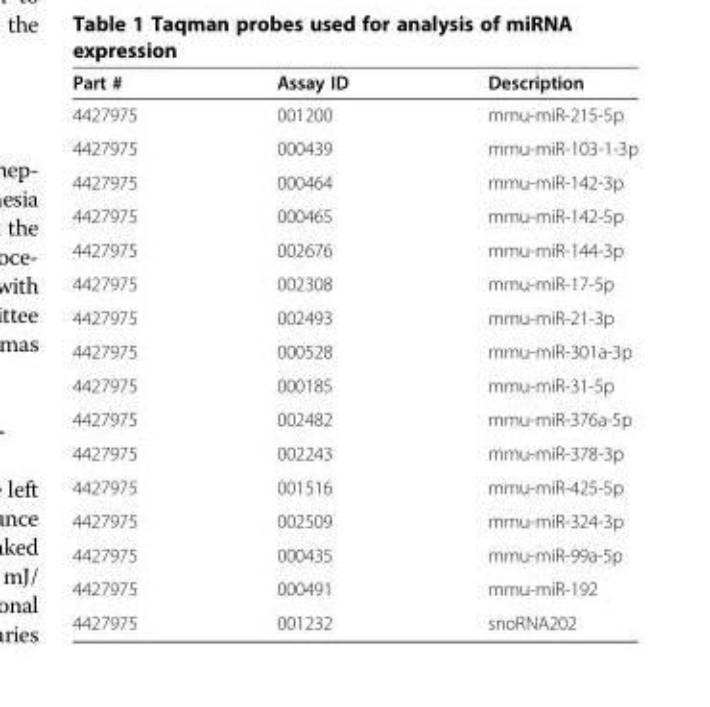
<table><thead><tr><td>Part #</td><td>Assay ID</td><td>Description</td></tr></thead><tbody><tr><td>4427975</td><td>001200</td><td>mmu-miR-215-5p</td></tr><tr><td>4427975</td><td>000439</td><td>mmu-miR-103-1-3p</td></tr><tr><td>4427975</td><td>000464</td><td>mmu-miR-142-3p</td></tr><tr><td>4427975</td><td>000465</td><td>mmu-miR-142-5p</td></tr><tr><td>4427975</td><td>002676</td><td>mmu-miR-144-3p</td></tr><tr><td>4427975</td><td>002308</td><td>mmu-miR-17-5p</td></tr><tr><td>4427975</td><td>002493</td><td>mmu-miR-21-3p</td></tr><tr><td>4427975</td><td>000528</td><td>mmu-miR-301a-3p</td></tr><tr><td>4427975</td><td>000185</td><td>mmu-miR-31-5p</td></tr><tr><td>4427975</td><td>002482</td><td>mmu-miR-376a-5p</td></tr><tr><td>4427975</td><td>002243</td><td>mmu-miR-378-3p</td></tr><tr><td>4427975</td><td>001516</td><td>mmu-miR-425-5p</td></tr><tr><td>4427975</td><td>002509</td><td>mmu-miR-324-3p</td></tr><tr><td>4427975</td><td>000435</td><td>mmu-miR-99a-5p</td></tr><tr><td>4427975</td><td>000491</td><td>mmu-miR-192</td></tr><tr><td>4427975</td><td>001232</td><td>snoRNA202</td></tr></tbody></table>